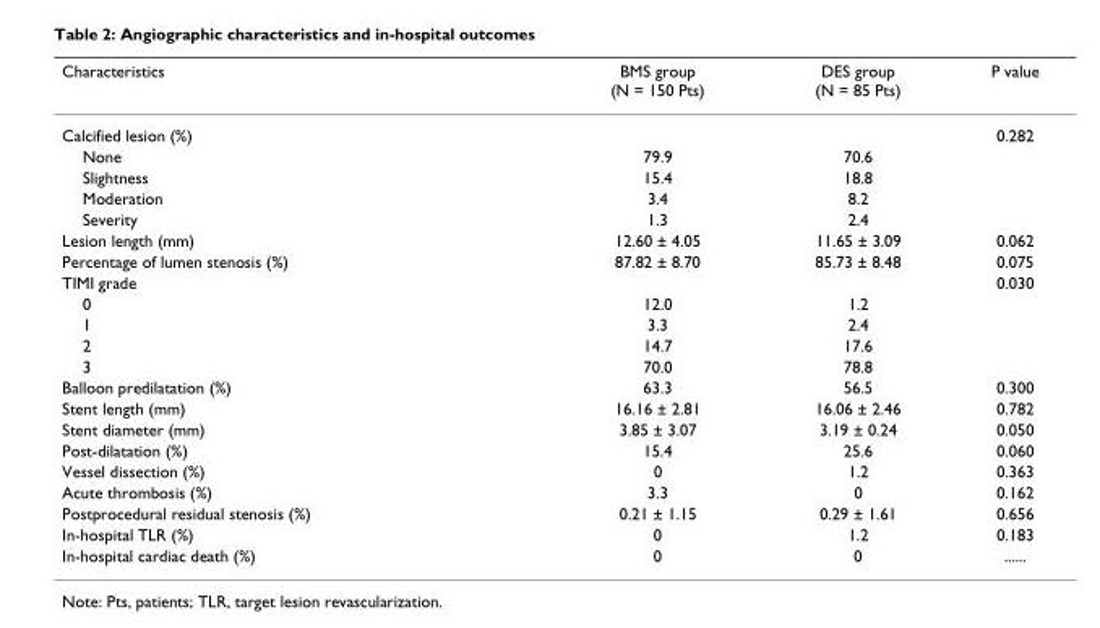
<table><thead><tr><td>Characteristics</td><td>BMS group (N = 150 Pts)</td><td>DES group (N = 85 Pts)</td><td>P value</td></tr></thead><tbody><tr><td>Calcified lesion (%)</td><td></td><td></td><td>0.282</td></tr><tr><td>None</td><td>79.9</td><td>70.6</td><td></td></tr><tr><td>Slightness</td><td>15.4</td><td>18.8</td><td></td></tr><tr><td>Moderation</td><td>3.4</td><td>8.2</td><td></td></tr><tr><td>Severity</td><td>1.3</td><td>2.4</td><td></td></tr><tr><td>Lesion length (mm)</td><td>12.60 ± 4.05</td><td>11.65 ± 3.09</td><td>0.062</td></tr><tr><td>Percentage of lumen stenosis (%)</td><td>87.82 ± 8.70</td><td>85.73 ± 8.48</td><td>0.075</td></tr><tr><td>TIMI grade</td><td></td><td></td><td>0.030</td></tr><tr><td>0</td><td>12.0</td><td>1.2</td><td></td></tr><tr><td>1</td><td>3.3</td><td>2.4</td><td></td></tr><tr><td>2</td><td>14.7</td><td>17.6</td><td></td></tr><tr><td>3</td><td>70.0</td><td>78.8</td><td></td></tr><tr><td>Balloon predilatation (%)</td><td>63.3</td><td>56.5</td><td>0.300</td></tr><tr><td>Stent length (mm)</td><td>16.16 ± 2.81</td><td>16.06 ± 2.46</td><td>0.782</td></tr><tr><td>Stent diameter (mm)</td><td>3.85 ± 3.07</td><td>3.19 ± 0.24</td><td>0.050</td></tr><tr><td>Post-dilatation (%)</td><td>15.4</td><td>25.6</td><td>0.060</td></tr><tr><td>Vessel dissection (%)</td><td>0</td><td>1.2</td><td>0.363</td></tr><tr><td>Acute thrombosis (%)</td><td>3.3</td><td>0</td><td>0.162</td></tr><tr><td>Postprocedural residual stenosis (%)</td><td>0.21 ± 1.15</td><td>0.29 ± 1.61</td><td>0.656</td></tr><tr><td>In-hospital TLR (%)</td><td>0</td><td>1.2</td><td>0.183</td></tr><tr><td>In-hospital cardiac death (%)</td><td>0</td><td>0</td><td>......</td></tr></tbody></table>